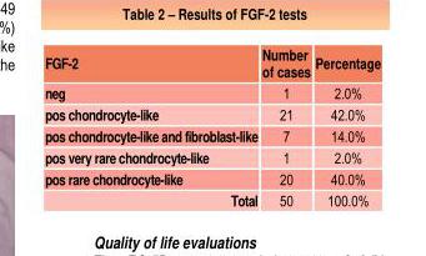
<table><thead><tr><td>FGF-2</td><td>Number of cases</td><td>Percentage</td></tr></thead><tbody><tr><td>neg</td><td>1</td><td>2.0%</td></tr><tr><td>pos chondrocyte-like</td><td>21</td><td>42.0%</td></tr><tr><td>pos chondrocyte-like and fibroblast-like</td><td>7</td><td>14.0%</td></tr><tr><td>pos very rare chondrocyte-like</td><td>1</td><td>2.0%</td></tr><tr><td>pos rare chondrocyte-like</td><td>20</td><td>40.0%</td></tr><tr><td>Total</td><td>50</td><td>100.0%</td></tr></tbody></table>